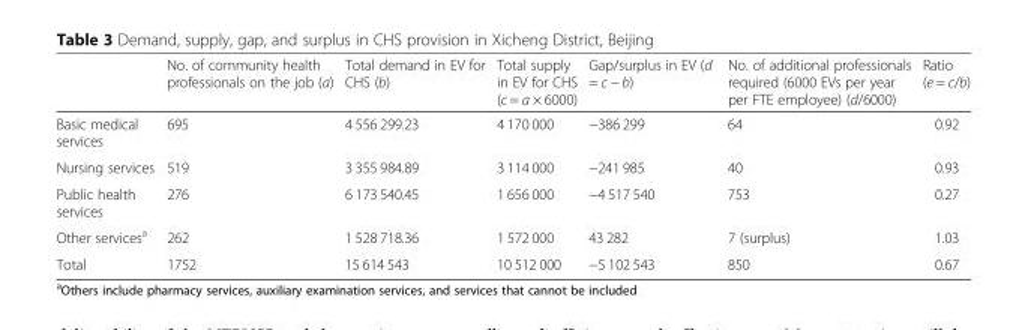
<table><thead><tr><td></td><td>No. of community health professionals on the job (a)</td><td>Total demand in EV for CHS (b)</td><td>Total supply in EV for CHS (c = a × 6000)</td><td>Gap/surplus in EV (d = c − b)</td><td>No. of additional professionals required (6000 EVs per year per FTE employee) (d/6000)</td><td>Ratio (e = c/b)</td></tr></thead><tbody><tr><td>Basic medical services</td><td>695</td><td>4 556 299.23</td><td>4 170 000</td><td>−386 299</td><td>64</td><td>0.92</td></tr><tr><td>Nursing services</td><td>519</td><td>3 355 984.89</td><td>3 114 000</td><td>−241 985</td><td>40</td><td>0.93</td></tr><tr><td>Public health services</td><td>276</td><td>6 173 540.45</td><td>1 656 000</td><td>−4 517 540</td><td>753</td><td>0.27</td></tr><tr><td>Other services<sup>a</sup></td><td>262</td><td>1 528 718.36</td><td>1 572 000</td><td>43 282</td><td>7 (surplus)</td><td>1.03</td></tr><tr><td>Total</td><td>1752</td><td>15 614 543</td><td>10 512 000</td><td>−5 102 543</td><td>850</td><td>0.67</td></tr></tbody></table>